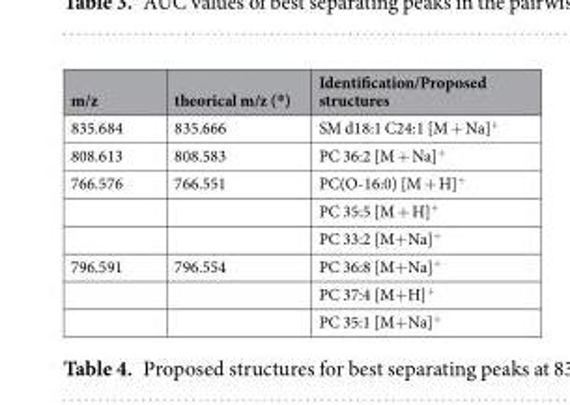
<table><thead><tr><td>m/z</td><td>theorical m/z (*)</td><td>Identification/Proposed structures</td></tr></thead><tbody><tr><td>835.684</td><td>835.666</td><td>SM d18:1 C24:1 [M + Na]<sup>+</sup></td></tr><tr><td>808.613</td><td>808.583</td><td>PC 36:2 [M + Na]<sup>+</sup></td></tr><tr><td rowspan="3">766.576</td><td>766.551</td><td>PC(O-16:0) [M + H]<sup>+</sup></td></tr><tr><td></td><td>PC 35:5 [M + H]<sup>+</sup></td></tr><tr><td></td><td>PC 33:2 [M+Na]<sup>+</sup></td></tr><tr><td rowspan="3">796.591</td><td>796.554</td><td>PC 36:8 [M+Na]<sup>+</sup></td></tr><tr><td></td><td>PC 37:4 [M+H]<sup>+</sup></td></tr><tr><td></td><td>PC 35:1 [M+Na]<sup>+</sup></td></tr></tbody></table>